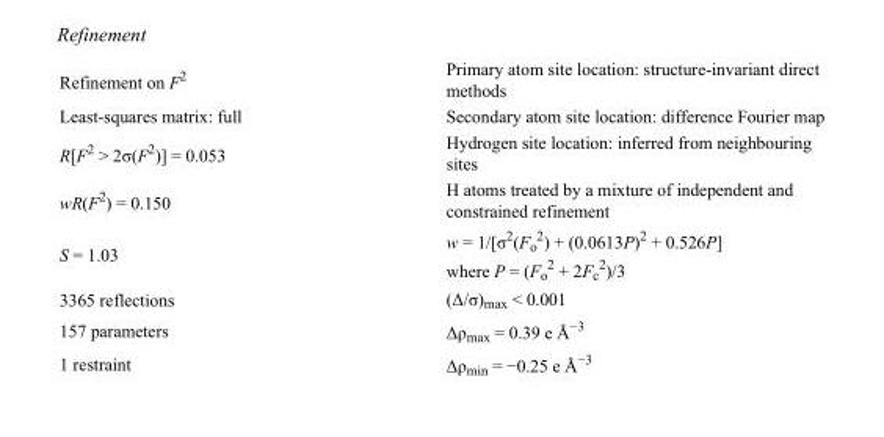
<table><tbody><tr><td>Refinement on F<sup>2</sup></td><td>Primary atom site location: structure-invariant direct methods</td></tr><tr><td>Least-squares matrix: full</td><td>Secondary atom site location: difference Fourier map</td></tr><tr><td>R[F<sup>2</sup> &gt; 2σ(F<sup>2</sup>)] = 0.053</td><td>Hydrogen site location: inferred from neighbouring sites</td></tr><tr><td>wR(F<sup>2</sup>) = 0.150</td><td>H atoms treated by a mixture of independent and constrained refinement</td></tr><tr><td>S = 1.03</td><td>w = 1/[σ<sup>2</sup>(F<sub>o</sub> <sup>2</sup>) + (0.0613P)<sup>2</sup> + 0.526P] where P = (F<sub>o</sub> <sup>2</sup> + 2F<sub>c</sub> <sup>2</sup>)/3</td></tr><tr><td>3365 reflections</td><td>(Δ/σ)<sub>max</sub> &lt; 0.001</td></tr><tr><td>157 parameters</td><td>Δρ<sub>max</sub> = 0.39 e Å<sup>−3</sup></td></tr><tr><td>1 restraint</td><td>Δρmin = −0.25 e Å−3</td></tr></tbody></table>